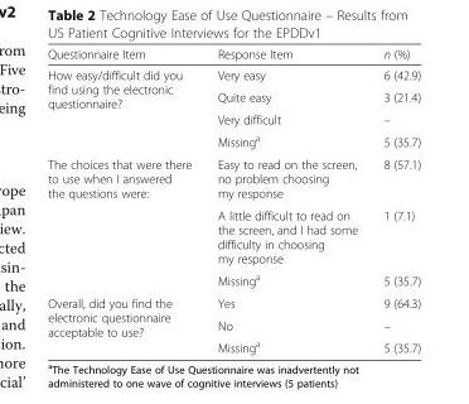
<table><thead><tr><td>Questionnaire Item</td><td>Response Item</td><td>n (%)</td></tr></thead><tbody><tr><td rowspan="4">How easy/difficult did you find using the electronic questionnaire?</td><td>Very easy</td><td>6 (42.9)</td></tr><tr><td>Quite easy</td><td>3 (21.4)</td></tr><tr><td>Very difficult</td><td>–</td></tr><tr><td>Missing<sup>a</sup></td><td>5 (35.7)</td></tr><tr><td rowspan="3">The choices that were there to use when I answered the questions were:</td><td>Easy to read on the screen, no problem choosing my response</td><td>8 (57.1)</td></tr><tr><td>A little difficult to read on the screen, and I had some difficulty in choosing my response</td><td>1 (7.1)</td></tr><tr><td>Missing<sup>a</sup></td><td>5 (35.7)</td></tr><tr><td rowspan="3">Overall, did you find the electronic questionnaire acceptable to use?</td><td>Yes</td><td>9 (64.3)</td></tr><tr><td>No</td><td>–</td></tr><tr><td>Missing<sup>a</sup></td><td>5 (35.7)</td></tr></tbody></table>